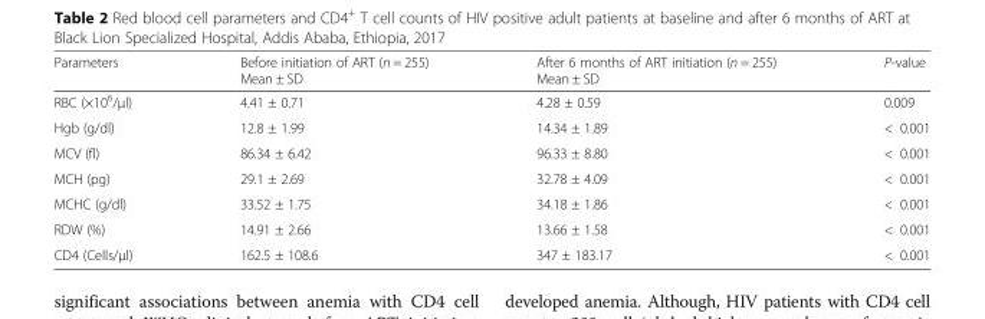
<table><thead><tr><td>Parameters</td><td>Before initiation of ART (n = 255) Mean ± SD</td><td>After 6 months of ART initiation (n = 255) Mean ± SD</td><td>P-value</td></tr></thead><tbody><tr><td>RBC (×10<sup>6</sup>/μl)</td><td>4.41 ± 0.71</td><td>4.28 ± 0.59</td><td>0.009</td></tr><tr><td>Hgb (g/dl)</td><td>12.8 ± 1.99</td><td>14.34 ± 1.89</td><td>&lt; 0.001</td></tr><tr><td>MCV (fl)</td><td>86.34 ± 6.42</td><td>96.33 ± 8.80</td><td>&lt; 0.001</td></tr><tr><td>MCH (pg)</td><td>29.1 ± 2.69</td><td>32.78 ± 4.09</td><td>&lt; 0.001</td></tr><tr><td>MCHC (g/dl)</td><td>33.52 ± 1.75</td><td>34.18 ± 1.86</td><td>&lt; 0.001</td></tr><tr><td>RDW (%)</td><td>14.91 ± 2.66</td><td>13.66 ± 1.58</td><td>&lt; 0.001</td></tr><tr><td>CD4 (Cells/μl)</td><td>162.5 ± 108.6</td><td>347 ± 183.17</td><td>&lt; 0.001</td></tr></tbody></table>